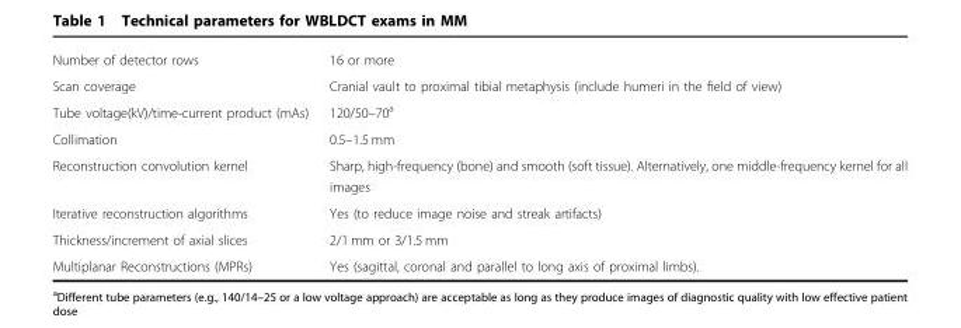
<table><tbody><tr><td>Number of detector rows</td><td>16 or more</td></tr><tr><td>Scan coverage</td><td>Cranial vault to proximal tibial metaphysis (include humeri in the field of view)</td></tr><tr><td>Tube voltage(kV)/time-current product (mAs)</td><td>120/50–70<sup>a</sup></td></tr><tr><td>Collimation</td><td>0.5–1.5 mm</td></tr><tr><td>Reconstruction convolution kernel</td><td>Sharp, high-frequency (bone) and smooth (soft tissue). Alternatively, one middle-frequency kernel for all images</td></tr><tr><td>Iterative reconstruction algorithms</td><td>Yes (to reduce image noise and streak artifacts)</td></tr><tr><td>Thickness/increment of axial slices</td><td>2/1 mm or 3/1.5 mm</td></tr><tr><td>Multiplanar Reconstructions (MPRs)</td><td>Yes (sagittal, coronal and parallel to long axis of proximal limbs).</td></tr></tbody></table>